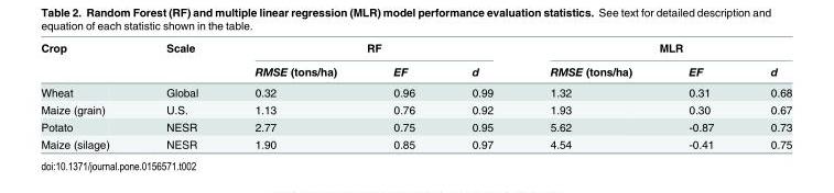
<table><thead><tr><td rowspan="2">Crop</td><td rowspan="2">Scale</td><td colspan="3">RF</td><td colspan="3">MLR</td></tr><tr><td>RMSE (tons/ha)</td><td>EF</td><td>d</td><td>RMSE (tons/ha)</td><td>EF</td><td>d</td></tr></thead><tbody><tr><td>Wheat</td><td>Global</td><td>0.32</td><td>0.96</td><td>0.99</td><td>1.32</td><td>0.31</td><td>0.68</td></tr><tr><td>Maize (grain)</td><td>U.S.</td><td>1.13</td><td>0.76</td><td>0.92</td><td>1.93</td><td>0.30</td><td>0.67</td></tr><tr><td>Potato</td><td>NESR</td><td>2.77</td><td>0.75</td><td>0.95</td><td>5.62</td><td>-0.87</td><td>0.73</td></tr><tr><td>Maize (silage)</td><td>NESR</td><td>1.90</td><td>0.85</td><td>0.97</td><td>4.54</td><td>-0.41</td><td>0.75</td></tr></tbody></table>